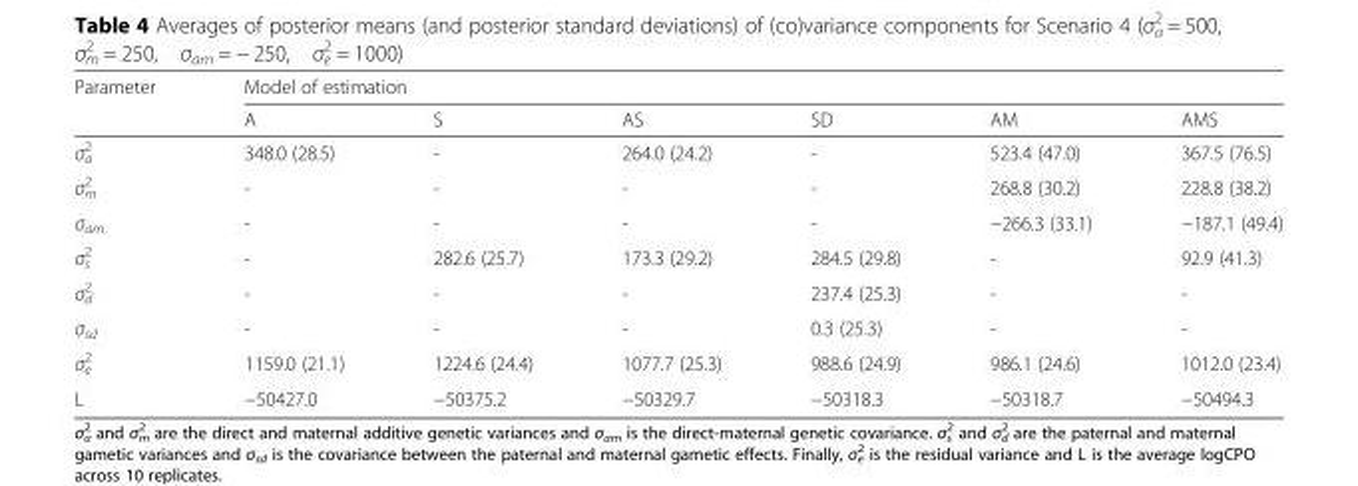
<table><thead><tr><td rowspan="2">Parameter</td><td colspan="6">Model of estimation</td></tr><tr><td>A</td><td>S</td><td>AS</td><td>SD</td><td>AM</td><td>AMS</td></tr></thead><tbody><tr><td>σ<sub>a</sub> <sup>2</sup></td><td>348.0 (28.5)</td><td>-</td><td>264.0 (24.2)</td><td>-</td><td>523.4 (47.0)</td><td>367.5 (76.5)</td></tr><tr><td>σ<sub>m</sub> <sup>2</sup></td><td>-</td><td>-</td><td>-</td><td>-</td><td>268.8 (30.2)</td><td>228.8 (38.2)</td></tr><tr><td>σ<sub>am</sub></td><td>-</td><td>-</td><td>-</td><td>-</td><td>−266.3 (33.1)</td><td>−187.1 (49.4)</td></tr><tr><td>σ<sub>s</sub> <sup>2</sup></td><td>-</td><td>282.6 (25.7)</td><td>173.3 (29.2)</td><td>284.5 (29.8)</td><td>-</td><td>92.9 (41.3)</td></tr><tr><td>σ<sub>d</sub> <sup>2</sup></td><td>-</td><td>-</td><td>-</td><td>237.4 (25.3)</td><td>-</td><td>-</td></tr><tr><td>σ<sub>sd</sub></td><td>-</td><td>-</td><td>-</td><td>0.3 (25.3)</td><td>-</td><td>-</td></tr><tr><td>σ<sub>e</sub> <sup>2</sup></td><td>1159.0 (21.1)</td><td>1224.6 (24.4)</td><td>1077.7 (25.3)</td><td>988.6 (24.9)</td><td>986.1 (24.6)</td><td>1012.0 (23.4)</td></tr><tr><td>L</td><td>−50427.0</td><td>−50375.2</td><td>−50329.7</td><td>−50318.3</td><td>−50318.7</td><td>−50494.3</td></tr></tbody></table>